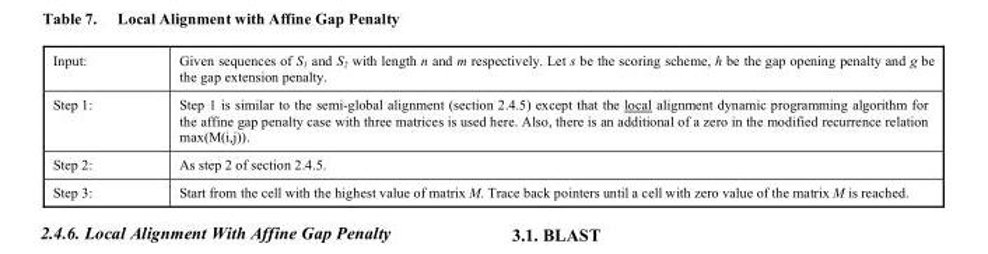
<table><tbody><tr><td>Input:</td><td>Given sequences of S<sub>1</sub> and S<sub>2</sub> with length n and m respectively. Let s be the scoring scheme, h be the gap opening penalty and g be the gap extension penalty.</td></tr><tr><td>Step 1:</td><td>Step 1 is similar to the semi-global alignment (section 2.4.5) except that the local alignment dynamic programming algorithm for the affine gap penalty case with three matrices is used here. Also, there is an additional of a zero in the modified recurrence relation max(M(i,j)).</td></tr><tr><td>Step 2:</td><td>As step 2 of section 2.4.5.</td></tr><tr><td>Step 3:</td><td>Start from the cell with the highest value of matrix M. Trace back pointers until a cell with zero value of the matrix M is reached.</td></tr></tbody></table>